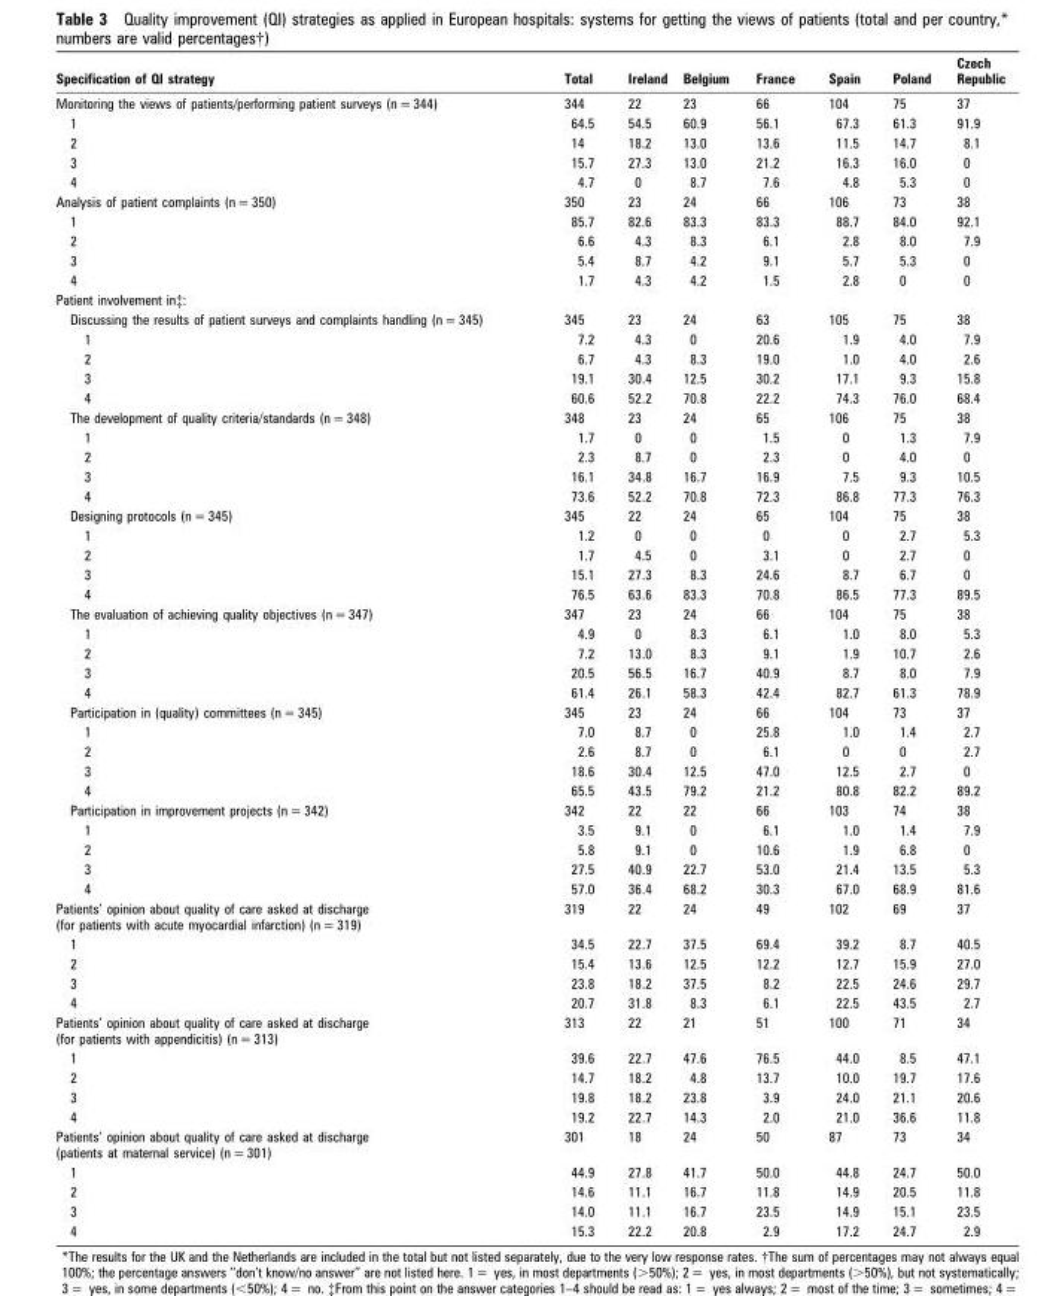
<table><thead><tr><td>Specification of QI strategy</td><td>Total</td><td>Ireland</td><td>Belgium</td><td>France</td><td>Spain</td><td>Poland</td><td>Czech Republic</td></tr></thead><tbody><tr><td>Monitoring the views of patients/performing patient surveys (n = 344)</td><td>344</td><td>22</td><td>23</td><td>66</td><td>104</td><td>75</td><td>37</td></tr><tr><td>1</td><td>64.5</td><td>54.5</td><td>60.9</td><td>56.1</td><td>67.3</td><td>61.3</td><td>91.9</td></tr><tr><td>2</td><td>14</td><td>18.2</td><td>13.0</td><td>13.6</td><td>11.5</td><td>14.7</td><td>8.1</td></tr><tr><td>3</td><td>15.7</td><td>27.3</td><td>13.0</td><td>21.2</td><td>16.3</td><td>16.0</td><td>0</td></tr><tr><td>4</td><td>4.7</td><td>0</td><td>8.7</td><td>7.6</td><td>4.8</td><td>5.3</td><td>0</td></tr><tr><td>Analysis of patient complaints (n = 350)</td><td>350</td><td>23</td><td>24</td><td>66</td><td>106</td><td>73</td><td>38</td></tr><tr><td>1</td><td>85.7</td><td>82.6</td><td>83.3</td><td>83.3</td><td>88.7</td><td>84.0</td><td>92.1</td></tr><tr><td>2</td><td>6.6</td><td>4.3</td><td>8.3</td><td>6.1</td><td>2.8</td><td>8.0</td><td>7.9</td></tr><tr><td>3</td><td>5.4</td><td>8.7</td><td>4.2</td><td>9.1</td><td>5.7</td><td>5.3</td><td>0</td></tr><tr><td>4</td><td>1.7</td><td>4.3</td><td>4.2</td><td>1.5</td><td>2.8</td><td>0</td><td>0</td></tr><tr><td colspan="8">Patient involvement in‡:</td></tr><tr><td>Discussing the results of patient surveys and complaints handling (n = 345)</td><td>345</td><td>23</td><td>24</td><td>63</td><td>105</td><td>75</td><td>38</td></tr><tr><td>1</td><td>7.2</td><td>4.3</td><td>0</td><td>20.6</td><td>1.9</td><td>4.0</td><td>7.9</td></tr><tr><td>2</td><td>6.7</td><td>4.3</td><td>8.3</td><td>19.0</td><td>1.0</td><td>4.0</td><td>2.6</td></tr><tr><td>3</td><td>19.1</td><td>30.4</td><td>12.5</td><td>30.2</td><td>17.1</td><td>9.3</td><td>15.8</td></tr><tr><td>4</td><td>60.6</td><td>52.2</td><td>70.8</td><td>22.2</td><td>74.3</td><td>76.0</td><td>68.4</td></tr><tr><td>The development of quality criteria/standards (n = 348)</td><td>348</td><td>23</td><td>24</td><td>65</td><td>106</td><td>75</td><td>38</td></tr><tr><td>1</td><td>1.7</td><td>0</td><td>0</td><td>1.5</td><td>0</td><td>1.3</td><td>7.9</td></tr><tr><td>2</td><td>2.3</td><td>8.7</td><td>0</td><td>2.3</td><td>0</td><td>4.0</td><td>0</td></tr><tr><td>3</td><td>16.1</td><td>34.8</td><td>16.7</td><td>16.9</td><td>7.5</td><td>9.3</td><td>10.5</td></tr><tr><td>4</td><td>73.6</td><td>52.2</td><td>70.8</td><td>72.3</td><td>86.8</td><td>77.3</td><td>76.3</td></tr><tr><td>Designing protocols (n = 345)</td><td>345</td><td>22</td><td>24</td><td>65</td><td>104</td><td>75</td><td>38</td></tr><tr><td>1</td><td>1.2</td><td>0</td><td>0</td><td>0</td><td>0</td><td>2.7</td><td>5.3</td></tr><tr><td>2</td><td>1.7</td><td>4.5</td><td>0</td><td>3.1</td><td>0</td><td>2.7</td><td>0</td></tr><tr><td>3</td><td>15.1</td><td>27.3</td><td>8.3</td><td>24.6</td><td>8.7</td><td>6.7</td><td>0</td></tr><tr><td>4</td><td>76.5</td><td>63.6</td><td>83.3</td><td>70.8</td><td>86.5</td><td>77.3</td><td>89.5</td></tr><tr><td>The evaluation of achieving quality objectives (n = 347)</td><td>347</td><td>23</td><td>24</td><td>66</td><td>104</td><td>75</td><td>38</td></tr><tr><td>1</td><td>4.9</td><td>0</td><td>8.3</td><td>6.1</td><td>1.0</td><td>8.0</td><td>5.3</td></tr><tr><td>2</td><td>7.2</td><td>13.0</td><td>8.3</td><td>9.1</td><td>1.9</td><td>10.7</td><td>2.6</td></tr><tr><td>3</td><td>20.5</td><td>56.5</td><td>16.7</td><td>40.9</td><td>8.7</td><td>8.0</td><td>7.9</td></tr><tr><td>4</td><td>61.4</td><td>26.1</td><td>58.3</td><td>42.4</td><td>82.7</td><td>61.3</td><td>78.9</td></tr><tr><td>Participation in (quality) committees (n = 345)</td><td>345</td><td>23</td><td>24</td><td>66</td><td>104</td><td>73</td><td>37</td></tr><tr><td>1</td><td>7.0</td><td>8.7</td><td>0</td><td>25.8</td><td>1.0</td><td>1.4</td><td>2.7</td></tr><tr><td>2</td><td>2.6</td><td>8.7</td><td>0</td><td>6.1</td><td>0</td><td>0</td><td>2.7</td></tr><tr><td>3</td><td>18.6</td><td>30.4</td><td>12.5</td><td>47.0</td><td>12.5</td><td>2.7</td><td>0</td></tr><tr><td>4</td><td>65.5</td><td>43.5</td><td>79.2</td><td>21.2</td><td>80.8</td><td>82.2</td><td>89.2</td></tr><tr><td>Participation in improvement projects (n = 342)</td><td>342</td><td>22</td><td>22</td><td>66</td><td>103</td><td>74</td><td>38</td></tr><tr><td>1</td><td>3.5</td><td>9.1</td><td>0</td><td>6.1</td><td>1.0</td><td>1.4</td><td>7.9</td></tr><tr><td>2</td><td>5.8</td><td>9.1</td><td>0</td><td>10.6</td><td>1.9</td><td>6.8</td><td>0</td></tr><tr><td>3</td><td>27.5</td><td>40.9</td><td>22.7</td><td>53.0</td><td>21.4</td><td>13.5</td><td>5.3</td></tr><tr><td>4</td><td>57.0</td><td>36.4</td><td>68.2</td><td>30.3</td><td>67.0</td><td>68.9</td><td>81.6</td></tr><tr><td>Patients’ opinion about quality of care asked at discharge (for patients with acute myocardial infarction) (n = 319)</td><td>319</td><td>22</td><td>24</td><td>49</td><td>102</td><td>69</td><td>37</td></tr><tr><td>1</td><td>34.5</td><td>22.7</td><td>37.5</td><td>69.4</td><td>39.2</td><td>8.7</td><td>40.5</td></tr><tr><td>2</td><td>15.4</td><td>13.6</td><td>12.5</td><td>12.2</td><td>12.7</td><td>15.9</td><td>27.0</td></tr><tr><td>3</td><td>23.8</td><td>18.2</td><td>37.5</td><td>8.2</td><td>22.5</td><td>24.6</td><td>29.7</td></tr><tr><td>4</td><td>20.7</td><td>31.8</td><td>8.3</td><td>6.1</td><td>22.5</td><td>43.5</td><td>2.7</td></tr><tr><td>Patients’ opinion about quality of care asked at discharge (for patients with appendicitis) (n = 313)</td><td>313</td><td>22</td><td>21</td><td>51</td><td>100</td><td>71</td><td>34</td></tr><tr><td>1</td><td>39.6</td><td>22.7</td><td>47.6</td><td>76.5</td><td>44.0</td><td>8.5</td><td>47.1</td></tr><tr><td>2</td><td>14.7</td><td>18.2</td><td>4.8</td><td>13.7</td><td>10.0</td><td>19.7</td><td>17.6</td></tr><tr><td>3</td><td>19.8</td><td>18.2</td><td>23.8</td><td>3.9</td><td>24.0</td><td>21.1</td><td>20.6</td></tr><tr><td>4</td><td>19.2</td><td>22.7</td><td>14.3</td><td>2.0</td><td>21.0</td><td>36.6</td><td>11.8</td></tr><tr><td>Patients’ opinion about quality of care asked at discharge (patients at maternal service) (n = 301)</td><td>301</td><td>18</td><td>24</td><td>50</td><td>87</td><td>73</td><td>34</td></tr><tr><td>1</td><td>44.9</td><td>27.8</td><td>41.7</td><td>50.0</td><td>44.8</td><td>24.7</td><td>50.0</td></tr><tr><td>2</td><td>14.6</td><td>11.1</td><td>16.7</td><td>11.8</td><td>14.9</td><td>20.5</td><td>11.8</td></tr><tr><td>3</td><td>14.0</td><td>11.1</td><td>16.7</td><td>23.5</td><td>14.9</td><td>15.1</td><td>23.5</td></tr><tr><td>4</td><td>15.3</td><td>22.2</td><td>20.8</td><td>2.9</td><td>17.2</td><td>24.7</td><td>2.9</td></tr></tbody></table>